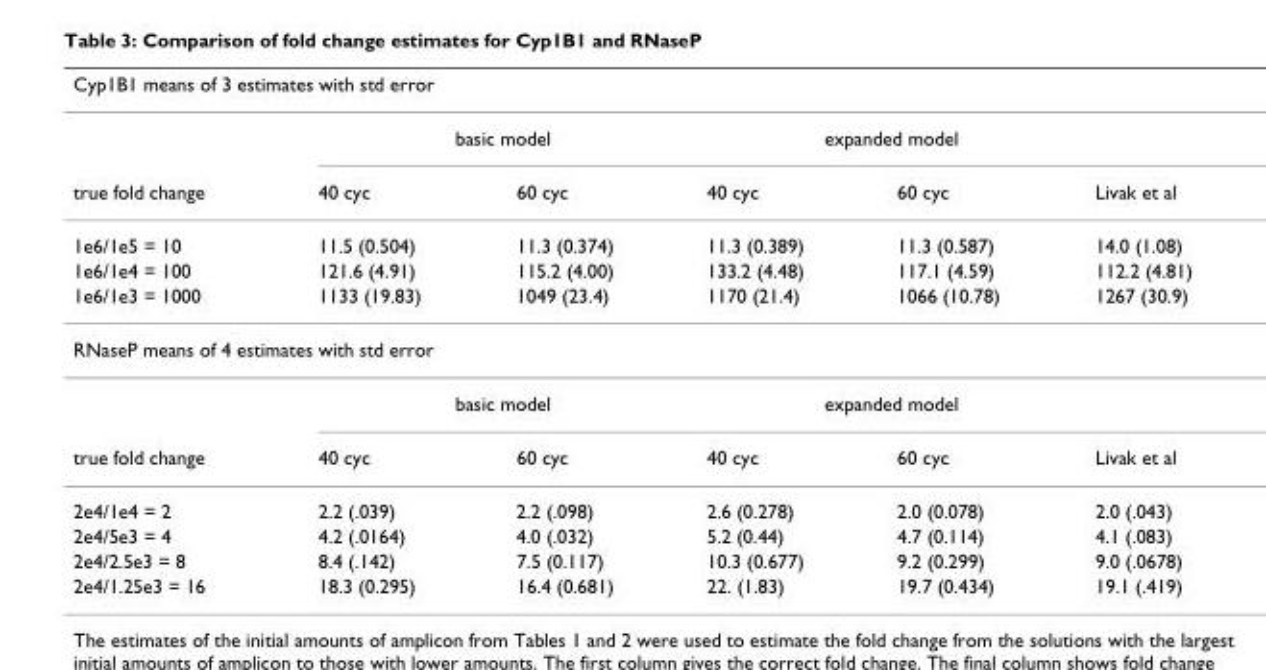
<table><thead><tr><td colspan="6">Cyp1B1 means of 3 estimates with std error</td></tr><tr><td rowspan="2">true fold change</td><td colspan="2">basic model</td><td colspan="2">expanded model</td><td rowspan="2">Livak et al</td></tr><tr><td>40 cyc</td><td>60 cyc</td><td>40 cyc</td><td>60 cyc</td></tr></thead><tbody><tr><td>1e6/1e5 = 10</td><td>11.5 (0.504)</td><td>11.3 (0.374)</td><td>11.3 (0.389)</td><td>11.3 (0.587)</td><td>14.0 (1.08)</td></tr><tr><td>1e6/1e4 = 100</td><td>121.6 (4.91)</td><td>115.2 (4.00)</td><td>133.2 (4.48)</td><td>117.1 (4.59)</td><td>112.2 (4.81)</td></tr><tr><td>1e6/1e3 = 1000</td><td>1133 (19.83)</td><td>1049 (23.4)</td><td>1170 (21.4)</td><td>1066 (10.78)</td><td>1267 (30.9)</td></tr><tr><td colspan="6">RNaseP means of 4 estimates with std error</td></tr><tr><td></td><td colspan="2">basic model</td><td colspan="2">expanded model</td><td></td></tr><tr><td>true fold change</td><td>40 cyc</td><td>60 cyc</td><td>40 cyc</td><td>60 cyc</td><td>Livak et al</td></tr><tr><td>2e4/1e4 = 2</td><td>2.2 (.039)</td><td>2.2 (.098)</td><td>2.6 (0.278)</td><td>2.0 (0.078)</td><td>2.0 (.043)</td></tr><tr><td>2e4/5e3 = 4</td><td>4.2 (.0164)</td><td>4.0 (.032)</td><td>5.2 (0.44)</td><td>4.7 (0.114)</td><td>4.1 (.083)</td></tr><tr><td>2e4/2.5e3 = 8</td><td>8.4 (.142)</td><td>7.5 (0.117)</td><td>10.3 (0.677)</td><td>9.2 (0.299)</td><td>9.0 (.0678)</td></tr><tr><td>2e4/1.25e3 = 16</td><td>18.3 (0.295)</td><td>16.4 (0.681)</td><td>22. (1.83)</td><td>19.7 (0.434)</td><td>19.1 (.419)</td></tr></tbody></table>